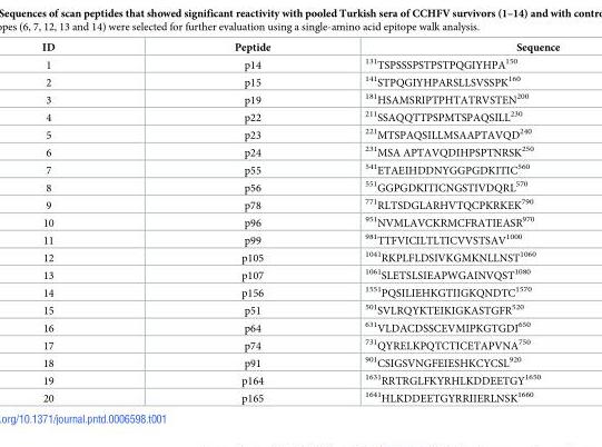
<table><thead><tr><td>ID</td><td>Peptide</td><td>Sequence</td></tr></thead><tbody><tr><td>1</td><td>p14</td><td><sup>131</sup>TSPSSSPSTPSTPQGIYHPA<sup>150</sup></td></tr><tr><td>2</td><td>p15</td><td><sup>141</sup>STPQGIYHPARSLLSVSSPK<sup>160</sup></td></tr><tr><td>3</td><td>p19</td><td><sup>181</sup>HSAMSRIPTPHTATRVSTEN<sup>200</sup></td></tr><tr><td>4</td><td>p22</td><td><sup>211</sup>SSAQQTTPSPMTSPAQSILL<sup>230</sup></td></tr><tr><td>5</td><td>p23</td><td><sup>221</sup>MTSPAQSILLMSAAPTAVQD<sup>240</sup></td></tr><tr><td>6</td><td>p24</td><td><sup>231</sup>MSA APTAVQDIHPSPTNRSK<sup>250</sup></td></tr><tr><td>7</td><td>p55</td><td><sup>541</sup>ETAEIHDDNYGGPGDKITIC<sup>560</sup></td></tr><tr><td>8</td><td>p56</td><td><sup>551</sup>GGPGDKITICNGSTIVDQRL<sup>570</sup></td></tr><tr><td>9</td><td>p78</td><td><sup>771</sup>RLTSDGLARHVTQCPKRKEK<sup>790</sup></td></tr><tr><td>10</td><td>p96</td><td><sup>951</sup>NVMLAVCKRMCFRATIEASR<sup>970</sup></td></tr><tr><td>11</td><td>p99</td><td><sup>981</sup>TTFVICILTLTICVVSTSAV<sup>1000</sup></td></tr><tr><td>12</td><td>p105</td><td><sup>1041</sup>RKPLFLDSIVKGMKNLLNST<sup>1060</sup></td></tr><tr><td>13</td><td>p107</td><td><sup>1061</sup>SLETSLSIEAPWGAINVQST<sup>1080</sup></td></tr><tr><td>14</td><td>p156</td><td><sup>1551</sup>PQSILIEHKGTIIGKQNDTC<sup>1570</sup></td></tr><tr><td>15</td><td>p51</td><td><sup>501</sup>SVLRQYKTEIKIGKASTGFR<sup>520</sup></td></tr><tr><td>16</td><td>p64</td><td><sup>631</sup>VLDACDSSCEVMIPKGTGDI<sup>650</sup></td></tr><tr><td>17</td><td>p74</td><td><sup>731</sup>QYRELKPQTCTICETAPVNA<sup>750</sup></td></tr><tr><td>18</td><td>p91</td><td><sup>901</sup>CSIGSVNGFEIESHKCYCSL<sup>920</sup></td></tr><tr><td>19</td><td>p164</td><td><sup>1631</sup>RRTRGLFKYRHLKDDEETGY<sup>1650</sup></td></tr><tr><td>20</td><td>p165</td><td><sup>1641</sup>HLKDDEETGYRRIIERLNSK<sup>1660</sup></td></tr></tbody></table>